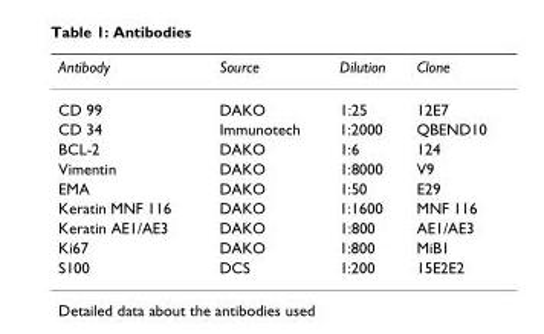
<table><thead><tr><td>Antibody</td><td>Source</td><td>Dilution</td><td>Clone</td></tr></thead><tbody><tr><td>CD 99</td><td>DAKO</td><td>1:25</td><td>12E7</td></tr><tr><td>CD 34</td><td>Immunotech</td><td>1:2000</td><td>QBEND10</td></tr><tr><td>BCL-2</td><td>DAKO</td><td>1:6</td><td>124</td></tr><tr><td>Vimentin</td><td>DAKO</td><td>1:8000</td><td>V9</td></tr><tr><td>EMA</td><td>DAKO</td><td>1:50</td><td>E29</td></tr><tr><td>Keratin MNF 116</td><td>DAKO</td><td>1:1600</td><td>MNF 116</td></tr><tr><td>Keratin AE1/AE3</td><td>DAKO</td><td>1:800</td><td>AE1/AE3</td></tr><tr><td>Ki67</td><td>DAKO</td><td>1:800</td><td>MiB1</td></tr><tr><td>S100</td><td>DCS</td><td>1:200</td><td>15E2E2</td></tr></tbody></table>